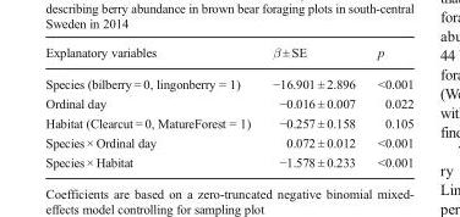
<table><thead><tr><td>Explanatory variables</td><td>β ± SE</td><td>p</td></tr></thead><tbody><tr><td>Species (bilberry = 0, lingonberry = 1)</td><td>−16.901 ± 2.896</td><td>&lt;0.001</td></tr><tr><td>Ordinal day</td><td>−0.016 ± 0.007</td><td>0.022</td></tr><tr><td>Habitat (Clearcut = 0, MatureForest = 1)</td><td>−0.257 ± 0.158</td><td>0.105</td></tr><tr><td>Species × Ordinal day</td><td>0.072 ± 0.012</td><td>&lt;0.001</td></tr><tr><td>Species × Habitat</td><td>−1.578 ± 0.233</td><td>&lt;0.001</td></tr></tbody></table>